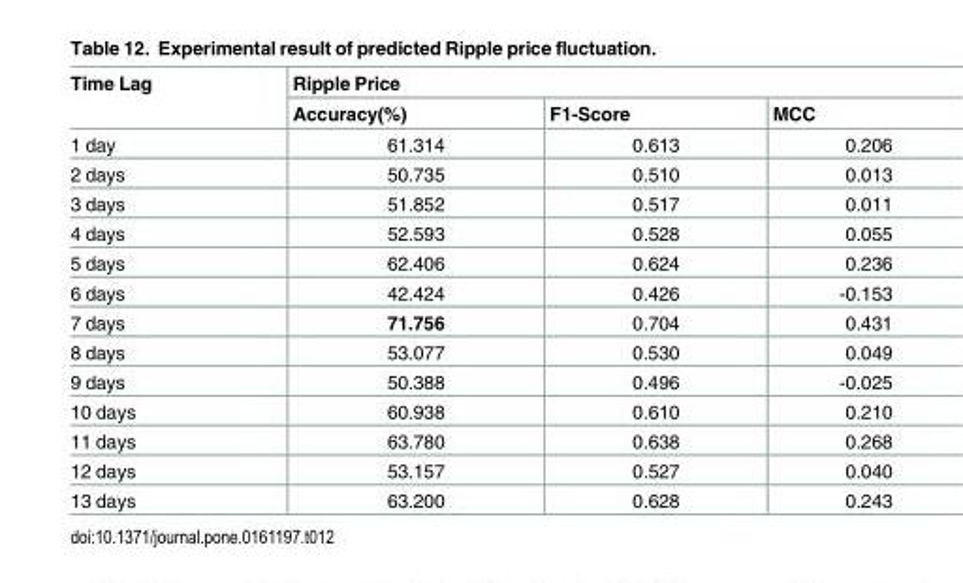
<table><thead><tr><td rowspan="2">Time Lag</td><td colspan="3">Ripple Price</td></tr><tr><td>Accuracy(%)</td><td>F1-Score</td><td>MCC</td></tr></thead><tbody><tr><td>1 day</td><td>61.314</td><td>0.613</td><td>0.206</td></tr><tr><td>2 days</td><td>50.735</td><td>0.510</td><td>0.013</td></tr><tr><td>3 days</td><td>51.852</td><td>0.517</td><td>0.011</td></tr><tr><td>4 days</td><td>52.593</td><td>0.528</td><td>0.055</td></tr><tr><td>5 days</td><td>62.406</td><td>0.624</td><td>0.236</td></tr><tr><td>6 days</td><td>42.424</td><td>0.426</td><td>-0.153</td></tr><tr><td>7 days</td><td>71.756</td><td>0.704</td><td>0.431</td></tr><tr><td>8 days</td><td>53.077</td><td>0.530</td><td>0.049</td></tr><tr><td>9 days</td><td>50.388</td><td>0.496</td><td>-0.025</td></tr><tr><td>10 days</td><td>60.938</td><td>0.610</td><td>0.210</td></tr><tr><td>11 days</td><td>63.780</td><td>0.638</td><td>0.268</td></tr><tr><td>12 days</td><td>53.157</td><td>0.527</td><td>0.040</td></tr><tr><td>13 days</td><td>63.200</td><td>0.628</td><td>0.243</td></tr></tbody></table>